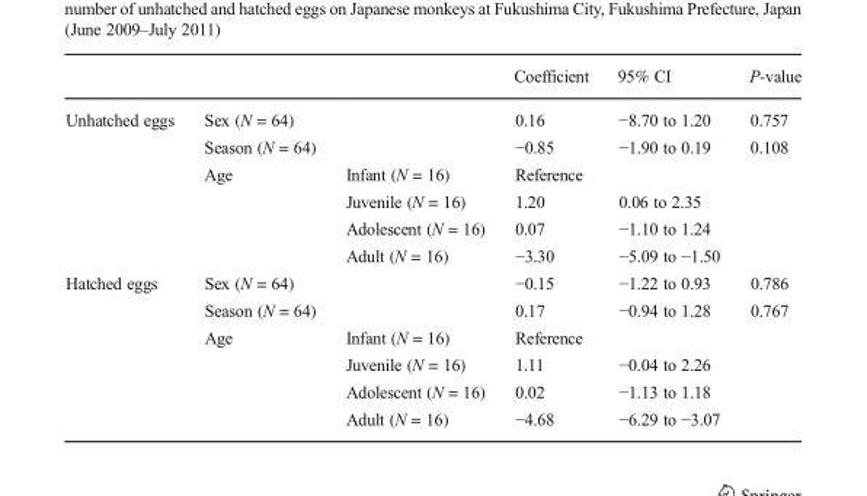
<table><thead><tr><td></td><td></td><td></td><td>Coefficient</td><td>95% CI</td><td>P-value</td></tr></thead><tbody><tr><td rowspan="6">Unhatched eggs</td><td>Sex (N = 64)</td><td></td><td>0.16</td><td>−8.70 to 1.20</td><td>0.757</td></tr><tr><td>Season (N = 64)</td><td></td><td>−0.85</td><td>−1.90 to 0.19</td><td>0.108</td></tr><tr><td rowspan="4">Age</td><td>Infant (N = 16)</td><td>Reference</td><td></td><td></td></tr><tr><td>Juvenile (N = 16)</td><td>1.20</td><td>0.06 to 2.35</td><td></td></tr><tr><td>Adolescent (N = 16)</td><td>0.07</td><td>−1.10 to 1.24</td><td></td></tr><tr><td>Adult (N = 16)</td><td>−3.30</td><td>−5.09 to −1.50</td><td></td></tr><tr><td rowspan="6">Hatched eggs</td><td>Sex (N = 64)</td><td></td><td>−0.15</td><td>−1.22 to 0.93</td><td>0.786</td></tr><tr><td>Season (N = 64)</td><td></td><td>0.17</td><td>−0.94 to 1.28</td><td>0.767</td></tr><tr><td rowspan="4">Age</td><td>Infant (N = 16)</td><td>Reference</td><td></td><td></td></tr><tr><td>Juvenile (N = 16)</td><td>1.11</td><td>−0.04 to 2.26</td><td></td></tr><tr><td>Adolescent (N = 16)</td><td>0.02</td><td>−1.13 to 1.18</td><td></td></tr><tr><td>Adult (N = 16)</td><td>−4.68</td><td>−6.29 to −3.07</td><td></td></tr></tbody></table>